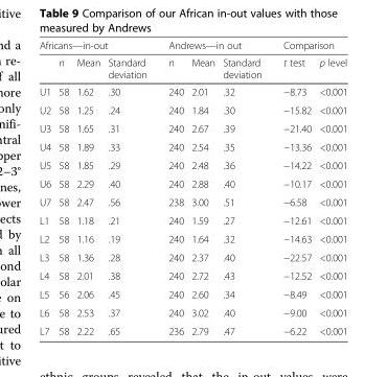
<table><thead><tr><td colspan="4">Africans—in-out</td><td colspan="3">Andrews—in out</td><td colspan="2">Comparison</td></tr><tr><td></td><td>n</td><td>Mean</td><td>Standard deviation</td><td>n</td><td>Mean</td><td>Standard deviation</td><td>t test</td><td>p level</td></tr></thead><tbody><tr><td>U1</td><td>58</td><td>1.62</td><td>.30</td><td>240</td><td>2.01</td><td>.32</td><td>−8.73</td><td>&lt;0.001</td></tr><tr><td>U2</td><td>58</td><td>1.25</td><td>.24</td><td>240</td><td>1.84</td><td>.30</td><td>−15.82</td><td>&lt;0.001</td></tr><tr><td>U3</td><td>58</td><td>1.65</td><td>.31</td><td>240</td><td>2.67</td><td>.39</td><td>−21.40</td><td>&lt;0.001</td></tr><tr><td>U4</td><td>58</td><td>1.89</td><td>.33</td><td>240</td><td>2.54</td><td>.35</td><td>−13.36</td><td>&lt;0.001</td></tr><tr><td>U5</td><td>58</td><td>1.85</td><td>.29</td><td>240</td><td>2.48</td><td>.36</td><td>−14.22</td><td>&lt;0.001</td></tr><tr><td>U6</td><td>58</td><td>2.29</td><td>.40</td><td>240</td><td>2.88</td><td>.40</td><td>−10.17</td><td>&lt;0.001</td></tr><tr><td>U7</td><td>58</td><td>2.47</td><td>.56</td><td>238</td><td>3.00</td><td>.51</td><td>−6.58</td><td>&lt;0.001</td></tr><tr><td>L1</td><td>58</td><td>1.18</td><td>.21</td><td>240</td><td>1.59</td><td>.27</td><td>−12.61</td><td>&lt;0.001</td></tr><tr><td>L2</td><td>58</td><td>1.16</td><td>.19</td><td>240</td><td>1.64</td><td>.32</td><td>−14.63</td><td>&lt;0.001</td></tr><tr><td>L3</td><td>58</td><td>1.36</td><td>.28</td><td>240</td><td>2.37</td><td>.40</td><td>−22.57</td><td>&lt;0.001</td></tr><tr><td>L4</td><td>58</td><td>2.01</td><td>.38</td><td>240</td><td>2.72</td><td>.43</td><td>−12.52</td><td>&lt;0.001</td></tr><tr><td>L5</td><td>56</td><td>2.06</td><td>.45</td><td>240</td><td>2.60</td><td>.34</td><td>−8.49</td><td>&lt;0.001</td></tr><tr><td>L6</td><td>58</td><td>2.53</td><td>.37</td><td>240</td><td>3.02</td><td>.40</td><td>−9.00</td><td>&lt;0.001</td></tr><tr><td>L7</td><td>58</td><td>2.22</td><td>.65</td><td>236</td><td>2.79</td><td>.47</td><td>−6.22</td><td>&lt;0.001</td></tr></tbody></table>